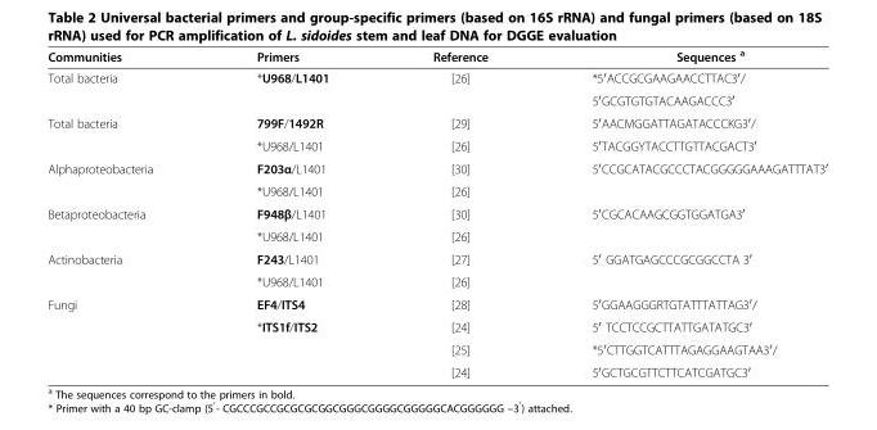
<table><thead><tr><td>Communities</td><td>Primers</td><td>Reference</td><td>Sequences <sup>a</sup></td></tr></thead><tbody><tr><td rowspan="2">Total bacteria</td><td rowspan="2">*U968/L1401</td><td rowspan="2">[26]</td><td>*5′ACCGCGAAGAACCTTAC3′/</td></tr><tr><td>5′GCGTGTGTACAAGACCC3′</td></tr><tr><td rowspan="2">Total bacteria</td><td>799F/1492R</td><td>[29]</td><td>5′AACMGGATTAGATACCCKG3′/</td></tr><tr><td>*U968/L1401</td><td>[26]</td><td>5′TACGGYTACCTTGTTACGACT3′</td></tr><tr><td rowspan="2">Alphaproteobacteria</td><td>F203α/L1401</td><td>[30]</td><td rowspan="2">5′CCGCATACGCCCTACGGGGGAAAGATTTAT3′</td></tr><tr><td>*U968/L1401</td><td>[26]</td></tr><tr><td rowspan="2">Betaproteobacteria</td><td>F948β/L1401</td><td>[30]</td><td rowspan="2">5′CGCACAAGCGGTGGATGA3′</td></tr><tr><td>*U968/L1401</td><td>[26]</td></tr><tr><td rowspan="2">Actinobacteria</td><td>F243/L1401</td><td>[27]</td><td rowspan="2">5′ GGATGAGCCCGCGGCCTA 3′</td></tr><tr><td>*U968/L1401</td><td>[26]</td></tr><tr><td rowspan="4">Fungi</td><td>EF4/ITS4</td><td>[28]</td><td>5′GGAAGGGRTGTATTTATTAG3′/</td></tr><tr><td rowspan="2">*ITS1f/ITS2</td><td>[24]</td><td>5′ TCCTCCGCTTATTGATATGC3′</td></tr><tr><td>[25]</td><td>*5′CTTGGTCATTTAGAGGAAGTAA3′/</td></tr><tr><td></td><td>[24]</td><td>5′GCTGCGTTCTTCATCGATGC3′</td></tr></tbody></table>